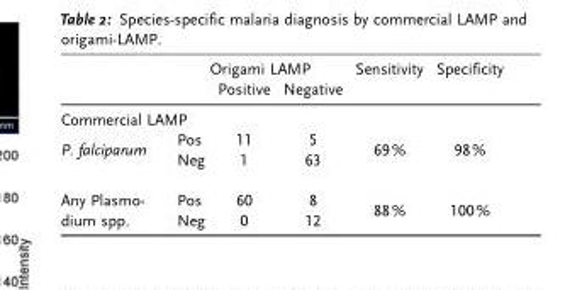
<table><thead><tr><td rowspan="2"></td><td colspan="3">Origami LAMP</td><td rowspan="2">Sensitivity</td><td rowspan="2">Specificity</td></tr><tr><td></td><td>Positive</td><td>Negative</td></tr></thead><tbody><tr><td colspan="6">Commercial LAMP</td></tr><tr><td rowspan="2">P. falciparum</td><td>Pos</td><td>11</td><td>5</td><td rowspan="2">69%</td><td rowspan="2">98%</td></tr><tr><td>Neg</td><td>1</td><td>63</td></tr><tr><td rowspan="2">Any Plasmo- dium spp.</td><td>Pos</td><td>60</td><td>8</td><td rowspan="2">88%</td><td rowspan="2">100%</td></tr><tr><td>Neg</td><td>0</td><td>12</td></tr></tbody></table>